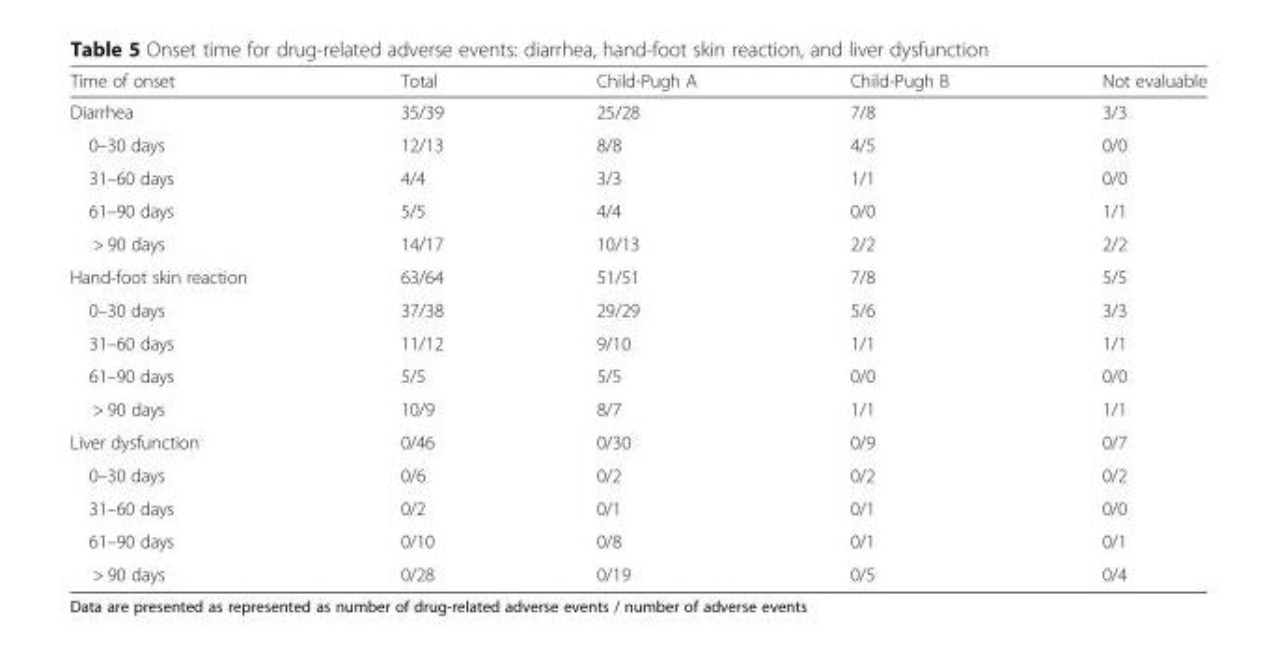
<table><thead><tr><td>Time of onset</td><td>Total</td><td>Child-Pugh A</td><td>Child-Pugh B</td><td>Not evaluable</td></tr></thead><tbody><tr><td>Diarrhea</td><td>35/39</td><td>25/28</td><td>7/8</td><td>3/3</td></tr><tr><td>0–30 days</td><td>12/13</td><td>8/8</td><td>4/5</td><td>0/0</td></tr><tr><td>31–60 days</td><td>4/4</td><td>3/3</td><td>1/1</td><td>0/0</td></tr><tr><td>61–90 days</td><td>5/5</td><td>4/4</td><td>0/0</td><td>1/1</td></tr><tr><td>&gt; 90 days</td><td>14/17</td><td>10/13</td><td>2/2</td><td>2/2</td></tr><tr><td>Hand-foot skin reaction</td><td>63/64</td><td>51/51</td><td>7/8</td><td>5/5</td></tr><tr><td>0–30 days</td><td>37/38</td><td>29/29</td><td>5/6</td><td>3/3</td></tr><tr><td>31–60 days</td><td>11/12</td><td>9/10</td><td>1/1</td><td>1/1</td></tr><tr><td>61–90 days</td><td>5/5</td><td>5/5</td><td>0/0</td><td>0/0</td></tr><tr><td>&gt; 90 days</td><td>10/9</td><td>8/7</td><td>1/1</td><td>1/1</td></tr><tr><td>Liver dysfunction</td><td>0/46</td><td>0/30</td><td>0/9</td><td>0/7</td></tr><tr><td>0–30 days</td><td>0/6</td><td>0/2</td><td>0/2</td><td>0/2</td></tr><tr><td>31–60 days</td><td>0/2</td><td>0/1</td><td>0/1</td><td>0/0</td></tr><tr><td>61–90 days</td><td>0/10</td><td>0/8</td><td>0/1</td><td>0/1</td></tr><tr><td>&gt; 90 days</td><td>0/28</td><td>0/19</td><td>0/5</td><td>0/4</td></tr></tbody></table>